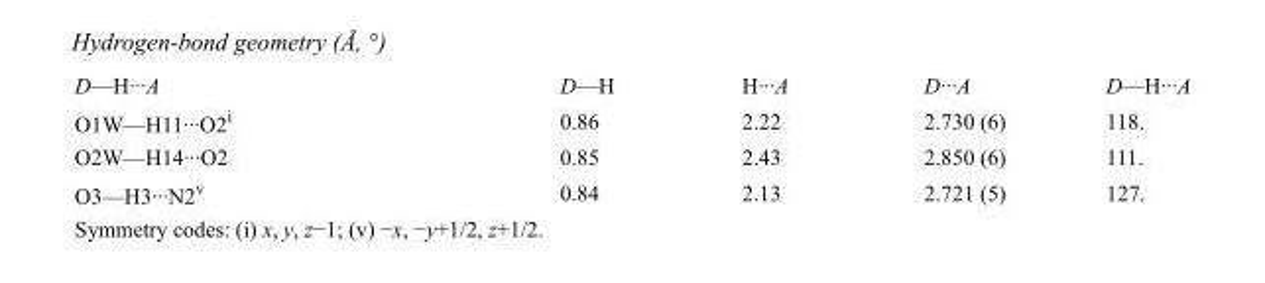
<table><tbody><tr><td>D—H···A</td><td>D—H</td><td>H···A</td><td>D···A</td><td>D—H···A</td></tr><tr><td>O1W—H11···O2<sup>i</sup></td><td>0.86</td><td>2.22</td><td>2.730 (6)</td><td>118.</td></tr><tr><td>O2W—H14···O2</td><td>0.85</td><td>2.43</td><td>2.850 (6)</td><td>111.</td></tr><tr><td>O3—H3···N2<sup>v</sup></td><td>0.84</td><td>2.13</td><td>2.721 (5)</td><td>127.</td></tr></tbody></table>